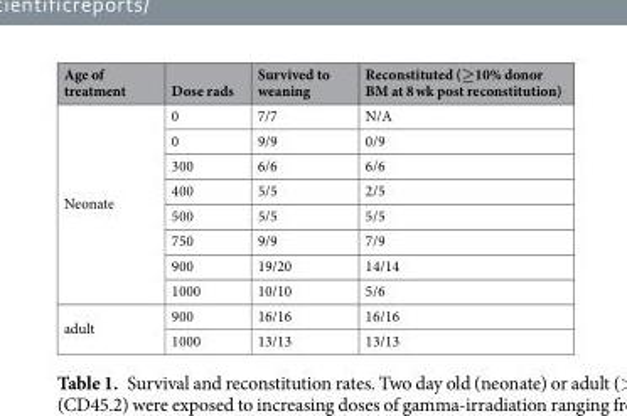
<table><thead><tr><td>Age of treatment</td><td>Dose rads</td><td>Survived to weaning</td><td>Reconstituted (≥10% donor BM at 8 wk post reconstitution)</td></tr></thead><tbody><tr><td rowspan="8">Neonate</td><td>0</td><td>7/7</td><td>N/A</td></tr><tr><td>0</td><td>9/9</td><td>0/9</td></tr><tr><td>300</td><td>6/6</td><td>6/6</td></tr><tr><td>400</td><td>5/5</td><td>2/5</td></tr><tr><td>500</td><td>5/5</td><td>5/5</td></tr><tr><td>750</td><td>9/9</td><td>7/9</td></tr><tr><td>900</td><td>19/20</td><td>14/14</td></tr><tr><td>1000</td><td>10/10</td><td>5/6</td></tr><tr><td rowspan="2">adult</td><td>900</td><td>16/16</td><td>16/16</td></tr><tr><td>1000</td><td>13/13</td><td>13/13</td></tr></tbody></table>